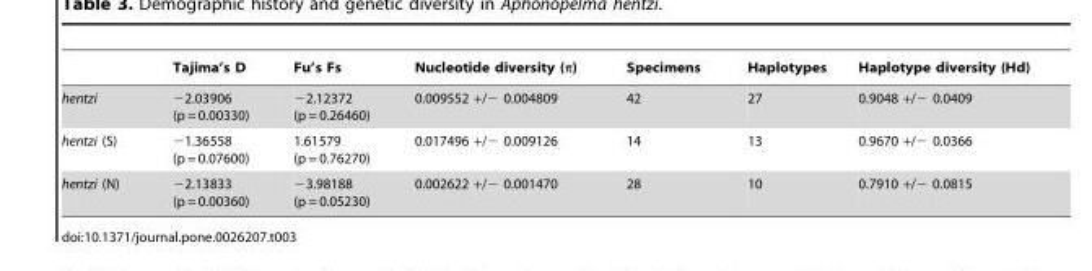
<table><thead><tr><td></td><td>Tajima’s D</td><td>Fu’s Fs</td><td>Nucleotide diversity (π)</td><td>Specimens</td><td>Haplotypes</td><td>Haplotype diversity (Hd)</td></tr></thead><tbody><tr><td>hentzi</td><td>−2.03906 (p = 0.00330)</td><td>−2.12372 (p = 0.26460)</td><td>0.009552 +/− 0.004809</td><td>42</td><td>27</td><td>0.9048 +/− 0.0409</td></tr><tr><td>hentzi (S)</td><td>−1.36558 (p = 0.07600)</td><td>1.61579 (p = 0.76270)</td><td>0.017496 +/− 0.009126</td><td>14</td><td>13</td><td>0.9670 +/− 0.0366</td></tr><tr><td>hentzi (N)</td><td>−2.13833 (p = 0.00360)</td><td>−3.98188 (p = 0.05230)</td><td>0.002622 +/− 0.001470</td><td>28</td><td>10</td><td>0.7910 +/− 0.0815</td></tr></tbody></table>